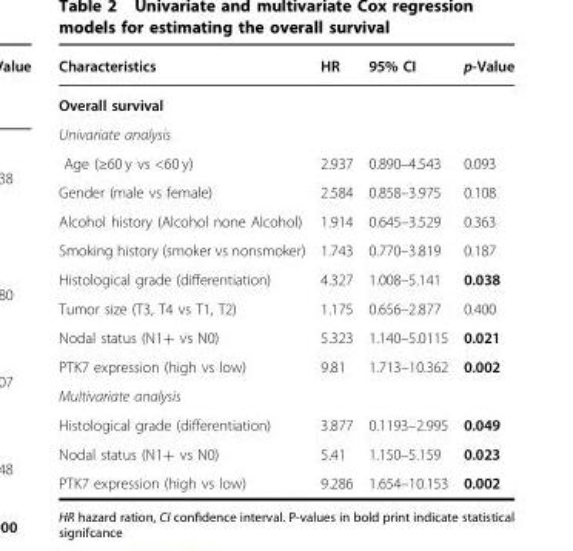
<table><thead><tr><td>Characteristics</td><td>HR</td><td>95% CI</td><td>p-Value</td></tr></thead><tbody><tr><td colspan="4">Overall survival</td></tr><tr><td colspan="4">Univariate analysis</td></tr><tr><td>Age (≥60 y vs &lt;60 y)</td><td>2.937</td><td>0.890–4.543</td><td>0.093</td></tr><tr><td>Gender (male vs female)</td><td>2.584</td><td>0.858–3.975</td><td>0.108</td></tr><tr><td>Alcohol history (Alcohol none Alcohol)</td><td>1.914</td><td>0.645–3.529</td><td>0.363</td></tr><tr><td>Smoking history (smoker vs nonsmoker)</td><td>1.743</td><td>0.770–3.819</td><td>0.187</td></tr><tr><td>Histological grade (differentiation)</td><td>4.327</td><td>1.008–5.141</td><td>0.038</td></tr><tr><td>Tumor size (T3, T4 vs T1, T2)</td><td>1.175</td><td>0.656–2.877</td><td>0.400</td></tr><tr><td>Nodal status (N1+ vs N0)</td><td>5.323</td><td>1.140–5.0115</td><td>0.021</td></tr><tr><td>PTK7 expression (high vs low)</td><td>9.81</td><td>1.713–10.362</td><td>0.002</td></tr><tr><td colspan="4">Multivariate analysis</td></tr><tr><td>Histological grade (differentiation)</td><td>3.877</td><td>0.1193–2.995</td><td>0.049</td></tr><tr><td>Nodal status (N1+ vs N0)</td><td>5.41</td><td>1.150–5.159</td><td>0.023</td></tr><tr><td>PTK7 expression (high vs low)</td><td>9.286</td><td>1.654–10.153</td><td>0.002</td></tr></tbody></table>